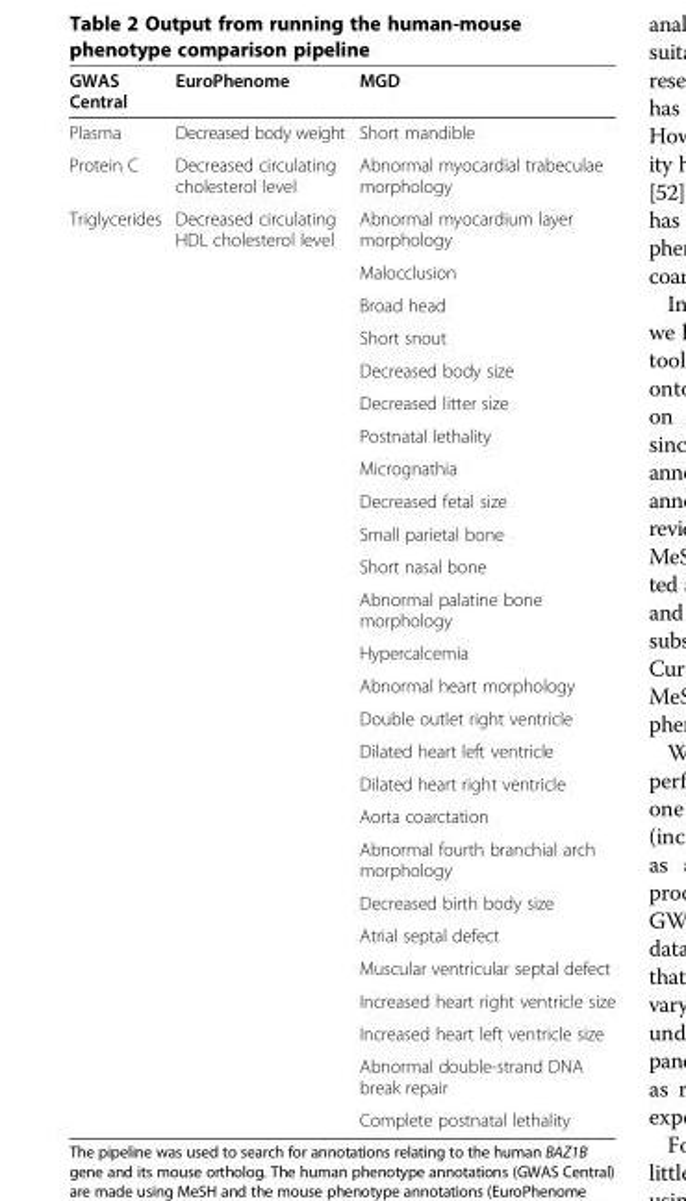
<table><thead><tr><td>GWAS Central</td><td>EuroPhenome</td><td>MGD</td></tr></thead><tbody><tr><td>Plasma</td><td>Decreased body weight</td><td>Short mandible</td></tr><tr><td>Protein C</td><td>Decreased circulating cholesterol level</td><td>Abnormal myocardial trabeculae morphology</td></tr><tr><td rowspan="26">Triglycerides</td><td>Decreased circulating HDL cholesterol level</td><td>Abnormal myocardium layer morphology</td></tr><tr><td></td><td>Malocclusion</td></tr><tr><td></td><td>Broad head</td></tr><tr><td></td><td>Short snout</td></tr><tr><td></td><td>Decreased body size</td></tr><tr><td></td><td>Decreased litter size</td></tr><tr><td></td><td>Postnatal lethality</td></tr><tr><td></td><td>Micrognathia</td></tr><tr><td></td><td>Decreased fetal size</td></tr><tr><td></td><td>Small parietal bone</td></tr><tr><td></td><td>Short nasal bone</td></tr><tr><td></td><td>Abnormal palatine bone morphology</td></tr><tr><td></td><td>Hypercalcemia</td></tr><tr><td></td><td>Abnormal heart morphology</td></tr><tr><td></td><td>Double outlet right ventricle</td></tr><tr><td></td><td>Dilated heart left ventricle</td></tr><tr><td></td><td>Dilated heart right ventricle</td></tr><tr><td></td><td>Aorta coarctation</td></tr><tr><td></td><td>Abnormal fourth branchial arch morphology</td></tr><tr><td></td><td>Decreased birth body size</td></tr><tr><td></td><td>Atrial septal defect</td></tr><tr><td></td><td>Muscular ventricular septal defect</td></tr><tr><td></td><td>Increased heart right ventricle size</td></tr><tr><td></td><td>Increased heart left ventricle size</td></tr><tr><td></td><td>Abnormal double-strand DNA break repair</td></tr><tr><td></td><td>Complete postnatal lethality</td></tr></tbody></table>